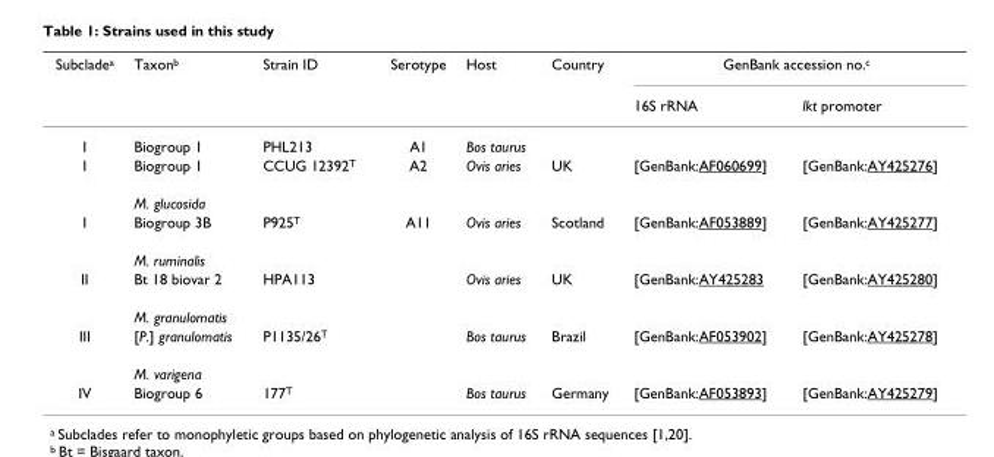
<table><thead><tr><td rowspan="2">Subclade<sup>a</sup></td><td rowspan="2">Taxon<sup>b</sup></td><td rowspan="2">Strain ID</td><td rowspan="2">Serotype</td><td rowspan="2">Host</td><td rowspan="2">Country</td><td colspan="2">GenBank accession no.<sup>c</sup></td></tr><tr><td>16S rRNA</td><td>lkt promoter</td></tr></thead><tbody><tr><td>I</td><td>Biogroup 1</td><td>PHL213</td><td>A1</td><td>Bos taurus</td><td></td><td></td><td></td></tr><tr><td rowspan="2">I</td><td>Biogroup 1</td><td>CCUG 12392<sup>T</sup></td><td>A2</td><td>Ovis aries</td><td>UK</td><td>[GenBank:AF060699]</td><td>[GenBank:AY425276]</td></tr><tr><td>M. glucosida</td><td></td><td></td><td></td><td></td><td></td><td></td></tr><tr><td rowspan="2">I</td><td>Biogroup 3B</td><td>P925<sup>T</sup></td><td>A11</td><td>Ovis aries</td><td>Scotland</td><td>[GenBank:AF053889]</td><td>[GenBank:AY425277]</td></tr><tr><td>M. ruminalis</td><td></td><td></td><td></td><td></td><td></td><td></td></tr><tr><td rowspan="2">II</td><td>Bt 18 biovar 2</td><td>HPA113</td><td></td><td>Ovis aries</td><td>UK</td><td>[GenBank:AY425283</td><td>[GenBank:AY425280]</td></tr><tr><td>M. granulomatis</td><td></td><td></td><td></td><td></td><td></td><td></td></tr><tr><td rowspan="2">III</td><td>[P.] granulomatis</td><td>P1135/26<sup>T</sup></td><td></td><td>Bos taurus</td><td>Brazil</td><td>[GenBank:AF053902]</td><td>[GenBank:AY425278]</td></tr><tr><td>M. varigena</td><td></td><td></td><td></td><td></td><td></td><td></td></tr><tr><td>IV</td><td>Biogroup 6</td><td>177<sup>T</sup></td><td></td><td>Bos taurus</td><td>Germany</td><td>[GenBank:AF053893]</td><td>[GenBank:AY425279]</td></tr></tbody></table>